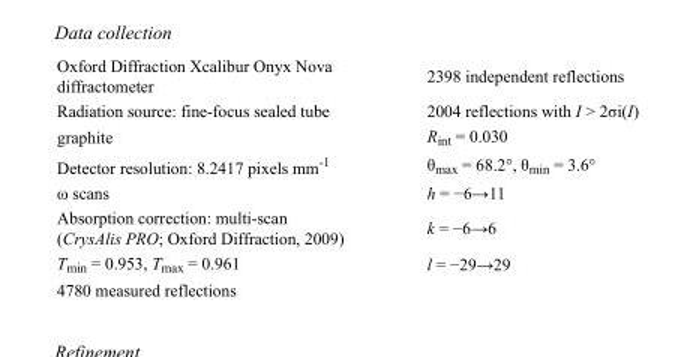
<table><tbody><tr><td>Oxford Diffraction Xcalibur Onyx Nova diffractometer</td><td>2398 independent reflections</td></tr><tr><td>Radiation source: fine-focus sealed tube</td><td>2004 reflections with I &gt; 2σi(I)</td></tr><tr><td>graphite</td><td>R<sub>int</sub> = 0.030</td></tr><tr><td>Detector resolution: 8.2417 pixels mm<sup>-1</sup></td><td>θ<sub>max</sub> = 68.2°, θ<sub>min</sub> = 3.6°</td></tr><tr><td>ω scans</td><td>h = −6→11</td></tr><tr><td>Absorption correction: multi-scan (CrysAlis PRO; Oxford Diffraction, 2009)</td><td>k = −6→6</td></tr><tr><td>T<sub>min</sub> = 0.953, T<sub>max</sub> = 0.961</td><td>l = −29→29</td></tr><tr><td>4780 measured reflections</td><td></td></tr></tbody></table>